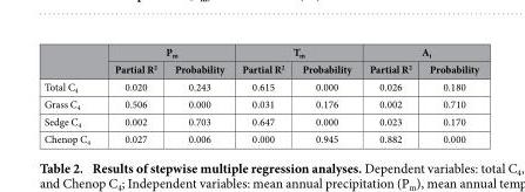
<table><thead><tr><td rowspan="2"></td><td colspan="2">P<sub>m</sub></td><td colspan="2">T<sub>m</sub></td><td colspan="2">A<sub>i</sub></td></tr><tr><td>Partial R<sup>2</sup></td><td>Probability</td><td>Partial R<sup>2</sup></td><td>Probability</td><td>Partial R<sup>2</sup></td><td>Probability</td></tr></thead><tbody><tr><td>Total C<sub>4</sub></td><td>0.020</td><td>0.243</td><td>0.615</td><td>0.000</td><td>0.026</td><td>0.180</td></tr><tr><td>Grass C<sub>4</sub></td><td>0.506</td><td>0.000</td><td>0.031</td><td>0.176</td><td>0.002</td><td>0.710</td></tr><tr><td>Sedge C<sub>4</sub></td><td>0.002</td><td>0.703</td><td>0.647</td><td>0.000</td><td>0.023</td><td>0.170</td></tr><tr><td>Chenop C<sub>4</sub></td><td>0.027</td><td>0.006</td><td>0.000</td><td>0.945</td><td>0.882</td><td>0.000</td></tr></tbody></table>